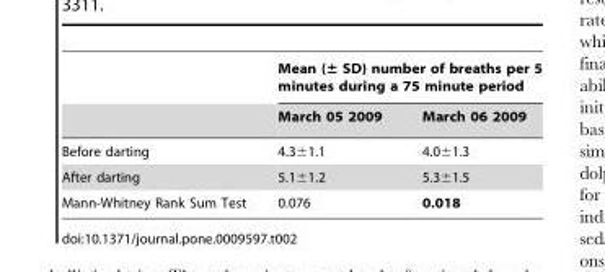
<table><thead><tr><td rowspan="2"></td><td colspan="2">Mean (± SD) number of breaths per 5 minutes during a 75 minute period</td></tr><tr><td>March 05 2009</td><td>March 06 2009</td></tr></thead><tbody><tr><td>Before darting</td><td>4.3±1.1</td><td>4.0±1.3</td></tr><tr><td>After darting</td><td>5.1±1.2</td><td>5.3±1.5</td></tr><tr><td>Mann-Whitney Rank Sum Test</td><td>0.076</td><td>0.018</td></tr></tbody></table>